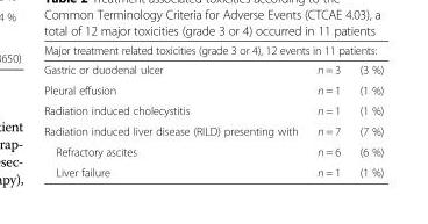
<table><thead><tr><td colspan="3">Major treatment related toxicities (grade 3 or 4), 12 events in 11 patients:</td></tr><tr><td>Gastric or duodenal ulcer</td><td>n = 3</td><td>(3 %)</td></tr></thead><tbody><tr><td>Pleural effusion</td><td>n = 1</td><td>(1 %)</td></tr><tr><td>Radiation induced cholecystitis</td><td>n = 1</td><td>(1 %)</td></tr><tr><td>Radiation induced liver disease (RILD) presenting with</td><td>n = 7</td><td>(7 %)</td></tr><tr><td>Refractory ascites</td><td>n = 6</td><td>(6 %)</td></tr><tr><td>Liver failure</td><td>n = 1</td><td>(1 %)</td></tr></tbody></table>